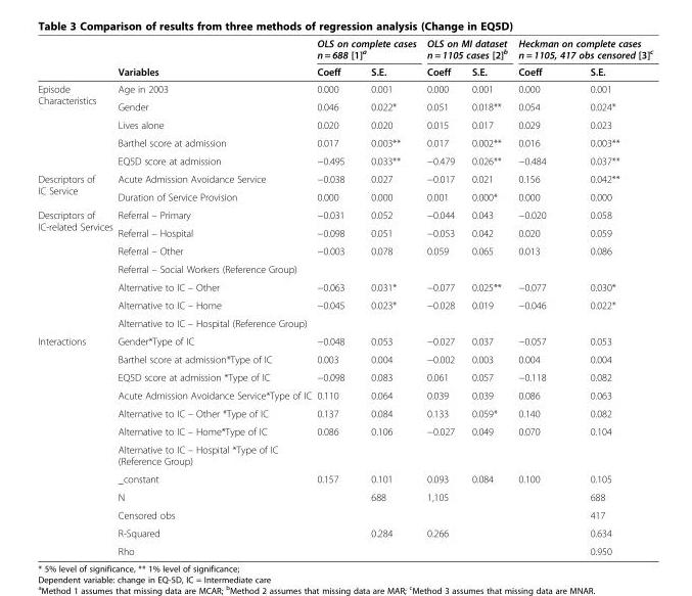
<table><thead><tr><td rowspan="2"></td><td rowspan="2">Variables</td><td colspan="2">OLS on complete cases n = 688 [1]<sup>a</sup></td><td colspan="2">OLS on MI dataset n = 1105 cases [2]<sup>b</sup></td><td colspan="2">Heckman on complete cases n = 1105, 417 obs censored [3]<sup>c</sup></td></tr><tr><td>Coeff</td><td>S.E.</td><td>Coeff</td><td>S.E.</td><td>Coeff</td><td>S.E.</td></tr></thead><tbody><tr><td rowspan="5">Episode Characteristics</td><td>Age in 2003</td><td>0.000</td><td>0.001</td><td>0.000</td><td>0.001</td><td>0.000</td><td>0.001</td></tr><tr><td>Gender</td><td>0.046</td><td>0.022*</td><td>0.051</td><td>0.018**</td><td>0.054</td><td>0.024*</td></tr><tr><td>Lives alone</td><td>0.020</td><td>0.020</td><td>0.015</td><td>0.017</td><td>0.029</td><td>0.023</td></tr><tr><td>Barthel score at admission</td><td>0.017</td><td>0.003**</td><td>0.017</td><td>0.002**</td><td>0.016</td><td>0.003**</td></tr><tr><td>EQ5D score at admission</td><td>−0.495</td><td>0.033**</td><td>−0.479</td><td>0.026**</td><td>−0.484</td><td>0.037**</td></tr><tr><td rowspan="2">Descriptors of IC Service</td><td>Acute Admission Avoidance Service</td><td>−0.038</td><td>0.027</td><td>−0.017</td><td>0.021</td><td>0.156</td><td>0.042**</td></tr><tr><td>Duration of Service Provision</td><td>0.000</td><td>0.000</td><td>0.001</td><td>0.000*</td><td>0.000</td><td>0.000</td></tr><tr><td rowspan="7">Descriptors of IC-related Services</td><td>Referral – Primary</td><td>−0.031</td><td>0.052</td><td>−0.044</td><td>0.043</td><td>−0.020</td><td>0.058</td></tr><tr><td>Referral – Hospital</td><td>−0.098</td><td>0.051</td><td>−0.053</td><td>0.042</td><td>0.020</td><td>0.059</td></tr><tr><td>Referral – Other</td><td>−0.003</td><td>0.078</td><td>0.059</td><td>0.065</td><td>0.013</td><td>0.086</td></tr><tr><td>Referral – Social Workers (Reference Group)</td><td></td><td></td><td></td><td></td><td></td><td></td></tr><tr><td>Alternative to IC – Other</td><td>−0.063</td><td>0.031*</td><td>−0.077</td><td>0.025**</td><td>−0.077</td><td>0.030*</td></tr><tr><td>Alternative to IC – Home</td><td>−0.045</td><td>0.023*</td><td>−0.028</td><td>0.019</td><td>−0.046</td><td>0.022*</td></tr><tr><td>Alternative to IC – Hospital (Reference Group)</td><td></td><td></td><td></td><td></td><td></td><td></td></tr><tr><td rowspan="12">Interactions</td><td>Gender*Type of IC</td><td>−0.048</td><td>0.053</td><td>−0.027</td><td>0.037</td><td>−0.057</td><td>0.053</td></tr><tr><td>Barthel score at admission*Type of IC</td><td>0.003</td><td>0.004</td><td>−0.002</td><td>0.003</td><td>0.004</td><td>0.004</td></tr><tr><td>EQ5D score at admission *Type of IC</td><td>−0.098</td><td>0.083</td><td>0.061</td><td>0.057</td><td>−0.118</td><td>0.082</td></tr><tr><td>Acute Admission Avoidance Service*Type of IC</td><td>0.110</td><td>0.064</td><td>0.039</td><td>0.039</td><td>0.086</td><td>0.063</td></tr><tr><td>Alternative to IC – Other *Type of IC</td><td>0.137</td><td>0.084</td><td>0.133</td><td>0.059*</td><td>0.140</td><td>0.082</td></tr><tr><td>Alternative to IC – Home*Type of IC</td><td>0.086</td><td>0.106</td><td>−0.027</td><td>0.049</td><td>0.070</td><td>0.104</td></tr><tr><td>Alternative to IC – Hospital *Type of IC (Reference Group)</td><td></td><td></td><td></td><td></td><td></td><td></td></tr><tr><td>_constant</td><td>0.157</td><td>0.101</td><td>0.093</td><td>0.084</td><td>0.100</td><td>0.105</td></tr><tr><td>N</td><td></td><td>688</td><td>1,105</td><td></td><td></td><td>688</td></tr><tr><td>Censored obs</td><td></td><td></td><td></td><td></td><td></td><td>417</td></tr><tr><td>R-Squared</td><td></td><td>0.284</td><td>0.266</td><td></td><td></td><td>0.634</td></tr><tr><td>Rho</td><td></td><td></td><td></td><td></td><td></td><td>0.950</td></tr></tbody></table>